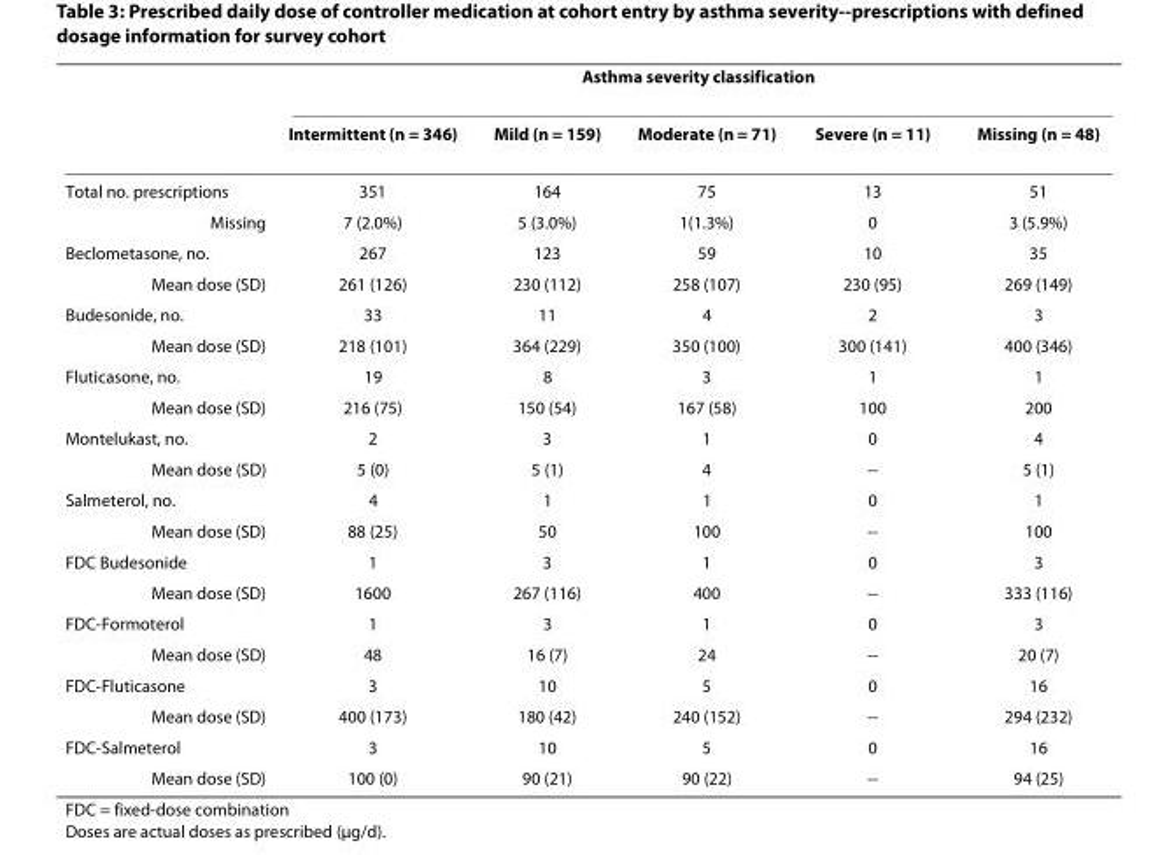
<table><thead><tr><td rowspan="2"></td><td colspan="5">Asthma severity classification</td></tr><tr><td>Intermittent (n = 346)</td><td>Mild (n = 159)</td><td>Moderate (n = 71)</td><td>Severe (n = 11)</td><td>Missing (n = 48)</td></tr></thead><tbody><tr><td>Total no. prescriptions</td><td>351</td><td>164</td><td>75</td><td>13</td><td>51</td></tr><tr><td>Missing</td><td>7 (2.0%)</td><td>5 (3.0%)</td><td>1(1.3%)</td><td>0</td><td>3 (5.9%)</td></tr><tr><td>Beclometasone, no.</td><td>267</td><td>123</td><td>59</td><td>10</td><td>35</td></tr><tr><td>Mean dose (SD)</td><td>261 (126)</td><td>230 (112)</td><td>258 (107)</td><td>230 (95)</td><td>269 (149)</td></tr><tr><td>Budesonide, no.</td><td>33</td><td>11</td><td>4</td><td>2</td><td>3</td></tr><tr><td>Mean dose (SD)</td><td>218 (101)</td><td>364 (229)</td><td>350 (100)</td><td>300 (141)</td><td>400 (346)</td></tr><tr><td>Fluticasone, no.</td><td>19</td><td>8</td><td>3</td><td>1</td><td>1</td></tr><tr><td>Mean dose (SD)</td><td>216 (75)</td><td>150 (54)</td><td>167 (58)</td><td>100</td><td>200</td></tr><tr><td>Montelukast, no.</td><td>2</td><td>3</td><td>1</td><td>0</td><td>4</td></tr><tr><td>Mean dose (SD)</td><td>5 (0)</td><td>5 (1)</td><td>4</td><td>--</td><td>5 (1)</td></tr><tr><td>Salmeterol, no.</td><td>4</td><td>1</td><td>1</td><td>0</td><td>1</td></tr><tr><td>Mean dose (SD)</td><td>88 (25)</td><td>50</td><td>100</td><td>--</td><td>100</td></tr><tr><td>FDC Budesonide</td><td>1</td><td>3</td><td>1</td><td>0</td><td>3</td></tr><tr><td>Mean dose (SD)</td><td>1600</td><td>267 (116)</td><td>400</td><td>--</td><td>333 (116)</td></tr><tr><td>FDC-Formoterol</td><td>1</td><td>3</td><td>1</td><td>0</td><td>3</td></tr><tr><td>Mean dose (SD)</td><td>48</td><td>16 (7)</td><td>24</td><td>--</td><td>20 (7)</td></tr><tr><td>FDC-Fluticasone</td><td>3</td><td>10</td><td>5</td><td>0</td><td>16</td></tr><tr><td>Mean dose (SD)</td><td>400 (173)</td><td>180 (42)</td><td>240 (152)</td><td>--</td><td>294 (232)</td></tr><tr><td>FDC-Salmeterol</td><td>3</td><td>10</td><td>5</td><td>0</td><td>16</td></tr><tr><td>Mean dose (SD)</td><td>100 (0)</td><td>90 (21)</td><td>90 (22)</td><td>--</td><td>94 (25)</td></tr></tbody></table>